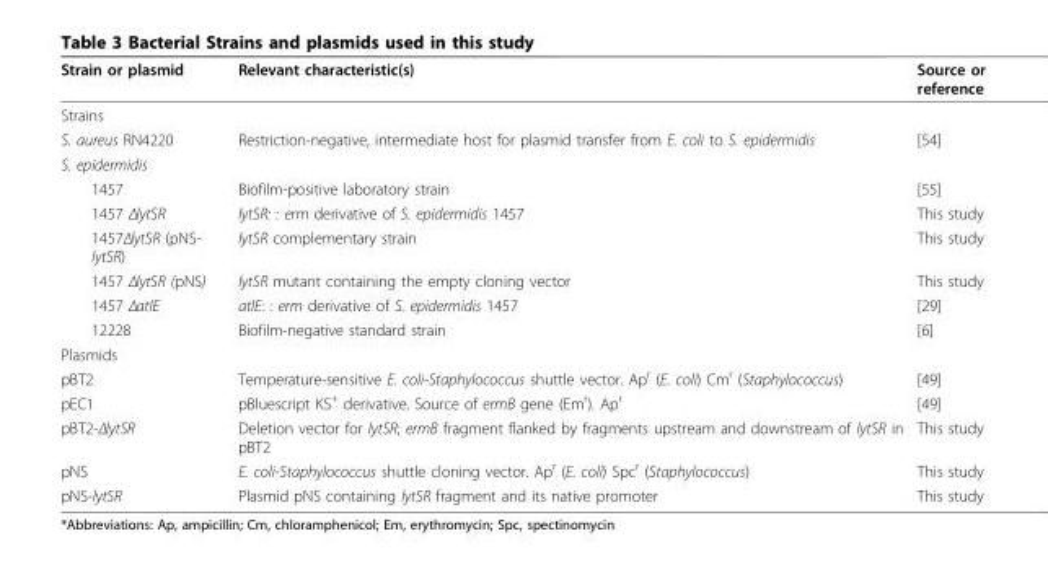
<table><thead><tr><td>Strain or plasmid</td><td>Relevant characteristic(s)</td><td>Source or reference</td></tr></thead><tbody><tr><td colspan="3">Strains</td></tr><tr><td>S. aureus RN4220</td><td>Restriction-negative, intermediate host for plasmid transfer from E. coli to S. epidermidis</td><td>[54]</td></tr><tr><td colspan="3">S. epidermidis</td></tr><tr><td>1457</td><td>Biofilm-positive laboratory strain</td><td>[55]</td></tr><tr><td>1457 ΔlytSR</td><td>lytSR: : erm derivative of S. epidermidis 1457</td><td>This study</td></tr><tr><td>1457ΔlytSR (pNS- lytSR)</td><td>lytSR complementary strain</td><td>This study</td></tr><tr><td>1457 ΔlytSR (pNS)</td><td>lytSR mutant containing the empty cloning vector</td><td>This study</td></tr><tr><td>1457 ΔatlE</td><td>atlE: : erm derivative of S. epidermidis 1457</td><td>[29]</td></tr><tr><td>12228</td><td>Biofilm-negative standard strain</td><td>[6]</td></tr><tr><td colspan="3">Plasmids</td></tr><tr><td>pBT2</td><td>Temperature-sensitive E. coli-Staphylococcus shuttle vector. Ap<sup>r</sup> (E. coli) Cm<sup>r</sup> (Staphylococcus)</td><td>[49]</td></tr><tr><td>pEC1</td><td>pBluescript KS<sup>+</sup> derivative. Source of ermB gene (Em<sup>r</sup>). Ap<sup>r</sup></td><td>[49]</td></tr><tr><td>pBT2-ΔlytSR</td><td>Deletion vector for lytSR; ermB fragment flanked by fragments upstream and downstream of lytSR in pBT2</td><td>This study</td></tr><tr><td>pNS</td><td>E. coli-Staphylococcus shuttle cloning vector. Ap<sup>r</sup> (E. coli) Spc<sup>r</sup> (Staphylococcus)</td><td>This study</td></tr><tr><td>pNS-lytSR</td><td>Plasmid pNS containing lytSR fragment and its native promoter</td><td>This study</td></tr></tbody></table>